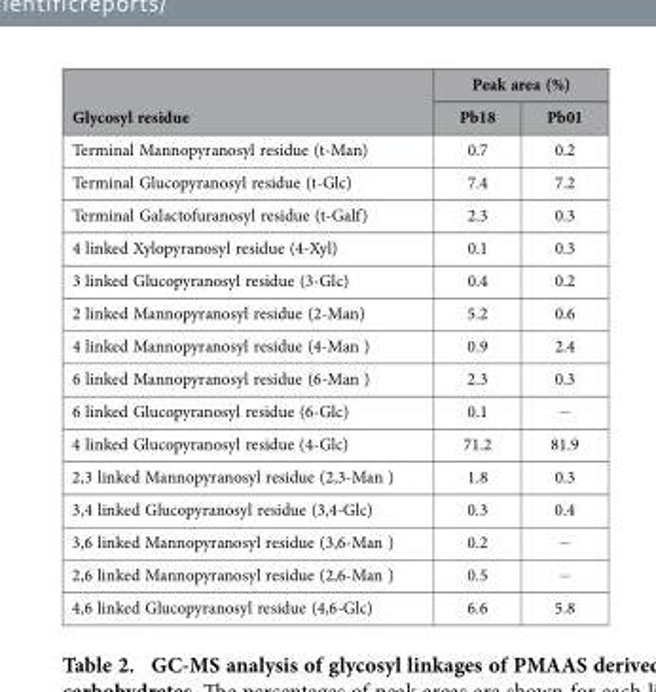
<table><thead><tr><td rowspan="2">Glycosyl residue</td><td colspan="2">Peak area (%)</td></tr><tr><td>Pb18</td><td>Pb01</td></tr></thead><tbody><tr><td>Terminal Mannopyranosyl residue (t-Man)</td><td>0.7</td><td>0.2</td></tr><tr><td>Terminal Glucopyranosyl residue (t-Glc)</td><td>7.4</td><td>7.2</td></tr><tr><td>Terminal Galactofuranosyl residue (t-Galf)</td><td>2.3</td><td>0.3</td></tr><tr><td>4 linked Xylopyranosyl residue (4-Xyl)</td><td>0.1</td><td>0.3</td></tr><tr><td>3 linked Glucopyranosyl residue (3-Glc)</td><td>0.4</td><td>0.2</td></tr><tr><td>2 linked Mannopyranosyl residue (2-Man)</td><td>5.2</td><td>0.6</td></tr><tr><td>4 linked Mannopyranosyl residue (4-Man )</td><td>0.9</td><td>2.4</td></tr><tr><td>6 linked Mannopyranosyl residue (6-Man )</td><td>2.3</td><td>0.3</td></tr><tr><td>6 linked Glucopyranosyl residue (6-Glc)</td><td>0.1</td><td>−</td></tr><tr><td>4 linked Glucopyranosyl residue (4-Glc)</td><td>71.2</td><td>81.9</td></tr><tr><td>2,3 linked Mannopyranosyl residue (2,3-Man )</td><td>1.8</td><td>0.3</td></tr><tr><td>3,4 linked Glucopyranosyl residue (3,4-Glc)</td><td>0.3</td><td>0.4</td></tr><tr><td>3,6 linked Mannopyranosyl residue (3,6-Man )</td><td>0.2</td><td>−</td></tr><tr><td>2,6 linked Mannopyranosyl residue (2,6-Man )</td><td>0.5</td><td>−</td></tr><tr><td>4,6 linked Glucopyranosyl residue (4,6-Glc)</td><td>6.6</td><td>5.8</td></tr></tbody></table>